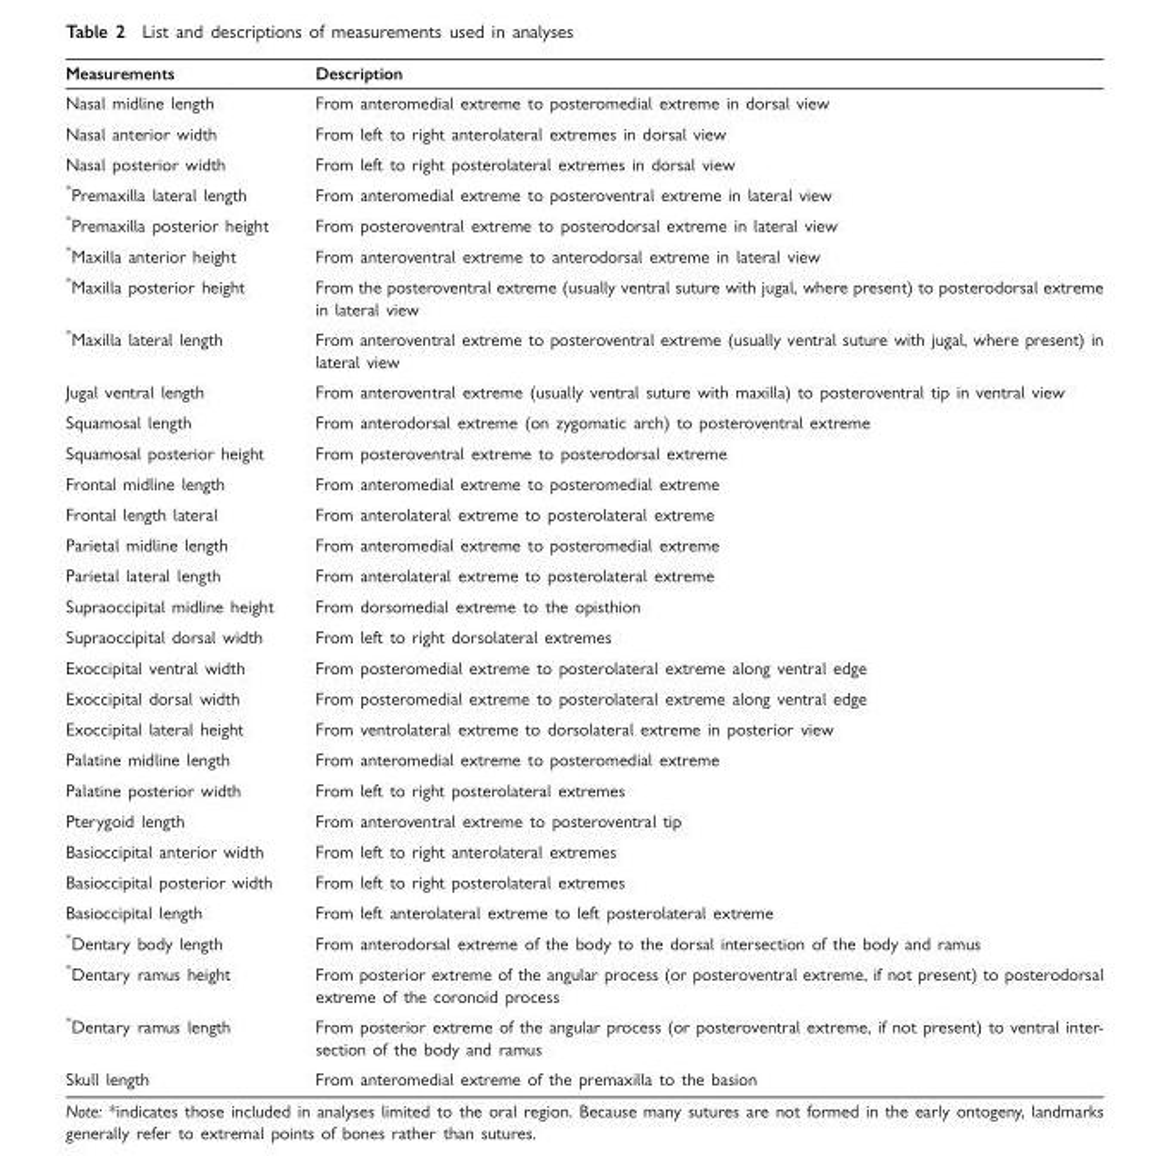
<table><thead><tr><td>Measurements</td><td>Description</td></tr></thead><tbody><tr><td>Nasal midline length</td><td>From anteromedial extreme to posteromedial extreme in dorsal view</td></tr><tr><td>Nasal anterior width</td><td>From left to right anterolateral extremes in dorsal view</td></tr><tr><td>Nasal posterior width</td><td>From left to right posterolateral extremes in dorsal view</td></tr><tr><td>*Premaxilla lateral length</td><td>From anteromedial extreme to posteroventral extreme in lateral view</td></tr><tr><td>*Premaxilla posterior height</td><td>From posteroventral extreme to posterodorsal extreme in lateral view</td></tr><tr><td>*Maxilla anterior height</td><td>From anteroventral extreme to anterodorsal extreme in lateral view</td></tr><tr><td>*Maxilla posterior height</td><td>From the posteroventral extreme (usually ventral suture with jugal, where present) to posterodorsal extreme in lateral view</td></tr><tr><td>*Maxilla lateral length</td><td>From anteroventral extreme to posteroventral extreme (usually ventral suture with jugal, where present) in lateral view</td></tr><tr><td>Jugal ventral length</td><td>From anteroventral extreme (usually ventral suture with maxilla) to posteroventral tip in ventral view</td></tr><tr><td>Squamosal length</td><td>From anterodorsal extreme (on zygomatic arch) to posteroventral extreme</td></tr><tr><td>Squamosal posterior height</td><td>From posteroventral extreme to posterodorsal extreme</td></tr><tr><td>Frontal midline length</td><td>From anteromedial extreme to posteromedial extreme</td></tr><tr><td>Frontal length lateral</td><td>From anterolateral extreme to posterolateral extreme</td></tr><tr><td>Parietal midline length</td><td>From anteromedial extreme to posteromedial extreme</td></tr><tr><td>Parietal lateral length</td><td>From anterolateral extreme to posterolateral extreme</td></tr><tr><td>Supraoccipital midline height</td><td>From dorsomedial extreme to the opisthion</td></tr><tr><td>Supraoccipital dorsal width</td><td>From left to right dorsolateral extremes</td></tr><tr><td>Exoccipital ventral width</td><td>From posteromedial extreme to posterolateral extreme along ventral edge</td></tr><tr><td>Exoccipital dorsal width</td><td>From posteromedial extreme to posterolateral extreme along ventral edge</td></tr><tr><td>Exoccipital lateral height</td><td>From ventrolateral extreme to dorsolateral extreme in posterior view</td></tr><tr><td>Palatine midline length</td><td>From anteromedial extreme to posteromedial extreme</td></tr><tr><td>Palatine posterior width</td><td>From left to right posterolateral extremes</td></tr><tr><td>Pterygoid length</td><td>From anteroventral extreme to posteroventral tip</td></tr><tr><td>Basioccipital anterior width</td><td>From left to right anterolateral extremes</td></tr><tr><td>Basioccipital posterior width</td><td>From left to right posterolateral extremes</td></tr><tr><td>Basioccipital length</td><td>From left anterolateral extreme to left posterolateral extreme</td></tr><tr><td>*Dentary body length</td><td>From anterodorsal extreme of the body to the dorsal intersection of the body and ramus</td></tr><tr><td>*Dentary ramus height</td><td>From posterior extreme of the angular process (or posteroventral extreme, if not present) to posterodorsal extreme of the coronoid process</td></tr><tr><td>*Dentary ramus length</td><td>From posterior extreme of the angular process (or posteroventral extreme, if not present) to ventral inter- section of the body and ramus</td></tr><tr><td>Skull length</td><td>From anteromedial extreme of the premaxilla to the basion</td></tr></tbody></table>